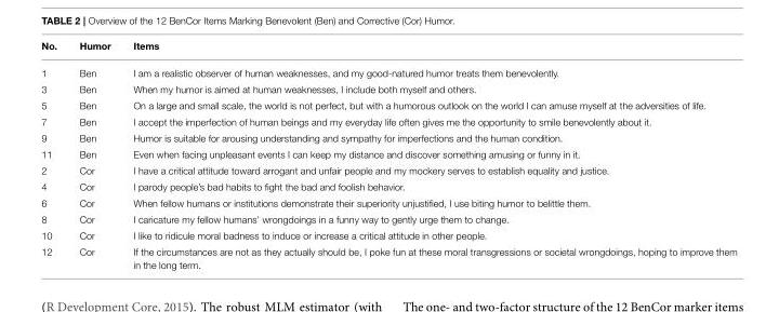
<table><thead><tr><td>No.</td><td>Humor</td><td>Items</td></tr></thead><tbody><tr><td>1</td><td>Ben</td><td>I am a realistic observer of human weaknesses, and my good-natured humor treats them benevolently.</td></tr><tr><td>3</td><td>Ben</td><td>When my humor is aimed at human weaknesses, I include both myself and others.</td></tr><tr><td>5</td><td>Ben</td><td>On a large and small scale, the world is not perfect, but with a humorous outlook on the world I can amuse myself at the adversities of life.</td></tr><tr><td>7</td><td>Ben</td><td>I accept the imperfection of human beings and my everyday life often gives me the opportunity to smile benevolently about it.</td></tr><tr><td>9</td><td>Ben</td><td>Humor is suitable for arousing understanding and sympathy for imperfections and the human condition.</td></tr><tr><td>11</td><td>Ben</td><td>Even when facing unpleasant events I can keep my distance and discover something amusing or funny in it.</td></tr><tr><td>2</td><td>Cor</td><td>I have a critical attitude toward arrogant and unfair people and my mockery serves to establish equality and justice.</td></tr><tr><td>4</td><td>Cor</td><td>I parody people’s bad habits to fight the bad and foolish behavior.</td></tr><tr><td>6</td><td>Cor</td><td>When fellow humans or institutions demonstrate their superiority unjustified, I use biting humor to belittle them.</td></tr><tr><td>8</td><td>Cor</td><td>I caricature my fellow humans’ wrongdoings in a funny way to gently urge them to change.</td></tr><tr><td>10</td><td>Cor</td><td>I like to ridicule moral badness to induce or increase a critical attitude in other people.</td></tr><tr><td>12</td><td>Cor</td><td>If the circumstances are not as they actually should be, I poke fun at these moral transgressions or societal wrongdoings, hoping to improve them in the long term.</td></tr></tbody></table>